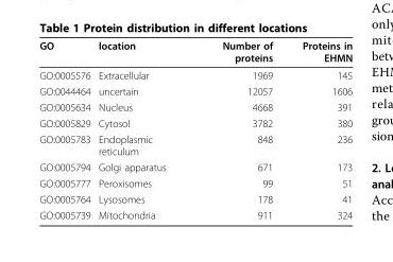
<table><thead><tr><td>GO</td><td>location</td><td>Number of proteins</td><td>Proteins in EHMN</td></tr></thead><tbody><tr><td>GO:0005576</td><td>Extracellular</td><td>1969</td><td>145</td></tr><tr><td>GO:0044464</td><td>uncertain</td><td>12057</td><td>1606</td></tr><tr><td>GO:0005634</td><td>Nucleus</td><td>4668</td><td>391</td></tr><tr><td>GO:0005829</td><td>Cytosol</td><td>3782</td><td>380</td></tr><tr><td>GO:0005783</td><td>Endoplasmic reticulum</td><td>848</td><td>236</td></tr><tr><td>GO:0005794</td><td>Golgi apparatus</td><td>671</td><td>173</td></tr><tr><td>GO:0005777</td><td>Peroxisomes</td><td>99</td><td>51</td></tr><tr><td>GO:0005764</td><td>Lysosomes</td><td>178</td><td>41</td></tr><tr><td>GO:0005739</td><td>Mitochondria</td><td>911</td><td>324</td></tr></tbody></table>